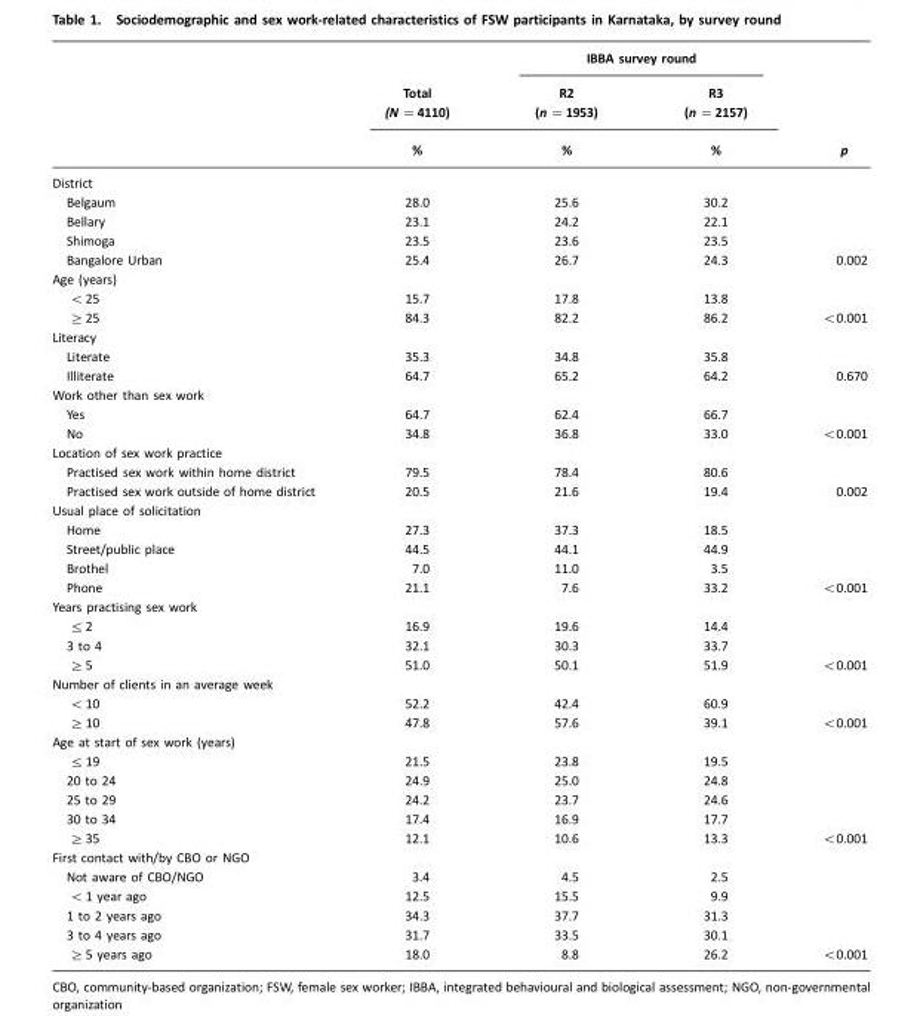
<table><thead><tr><td rowspan="4"></td><td rowspan="4">Total (N =4110) %</td><td colspan="2">IBBA survey round</td><td rowspan="4">p</td></tr><tr><td rowspan="3">R2 (n =1953) %</td><td rowspan="3">R3 (n =2157) %</td></tr><tr></tr><tr></tr></thead><tbody><tr><td colspan="5">District</td></tr><tr><td>Belgaum</td><td>28.0</td><td>25.6</td><td>30.2</td><td></td></tr><tr><td>Bellary</td><td>23.1</td><td>24.2</td><td>22.1</td><td></td></tr><tr><td>Shimoga</td><td>23.5</td><td>23.6</td><td>23.5</td><td></td></tr><tr><td>Bangalore Urban</td><td>25.4</td><td>26.7</td><td>24.3</td><td>0.002</td></tr><tr><td colspan="5">Age (years)</td></tr><tr><td>&lt;25</td><td>15.7</td><td>17.8</td><td>13.8</td><td></td></tr><tr><td>≥25</td><td>84.3</td><td>82.2</td><td>86.2</td><td>&lt;0.001</td></tr><tr><td colspan="5">Literacy</td></tr><tr><td>Literate</td><td>35.3</td><td>34.8</td><td>35.8</td><td></td></tr><tr><td>Illiterate</td><td>64.7</td><td>65.2</td><td>64.2</td><td>0.670</td></tr><tr><td colspan="5">Work other than sex work</td></tr><tr><td>Yes</td><td>64.7</td><td>62.4</td><td>66.7</td><td></td></tr><tr><td>No</td><td>34.8</td><td>36.8</td><td>33.0</td><td>&lt;0.001</td></tr><tr><td colspan="5">Location of sex work practice</td></tr><tr><td>Practised sex work within home district</td><td>79.5</td><td>78.4</td><td>80.6</td><td></td></tr><tr><td>Practised sex work outside of home district</td><td>20.5</td><td>21.6</td><td>19.4</td><td>0.002</td></tr><tr><td colspan="5">Usual place of solicitation</td></tr><tr><td>Home</td><td>27.3</td><td>37.3</td><td>18.5</td><td></td></tr><tr><td>Street/public place</td><td>44.5</td><td>44.1</td><td>44.9</td><td></td></tr><tr><td>Brothel</td><td>7.0</td><td>11.0</td><td>3.5</td><td></td></tr><tr><td>Phone</td><td>21.1</td><td>7.6</td><td>33.2</td><td>&lt;0.001</td></tr><tr><td colspan="5">Years practising sex work</td></tr><tr><td>≤2</td><td>16.9</td><td>19.6</td><td>14.4</td><td></td></tr><tr><td>3 to 4</td><td>32.1</td><td>30.3</td><td>33.7</td><td></td></tr><tr><td>≥5</td><td>51.0</td><td>50.1</td><td>51.9</td><td>&lt;0.001</td></tr><tr><td colspan="5">Number of clients in an average week</td></tr><tr><td>&lt;10</td><td>52.2</td><td>42.4</td><td>60.9</td><td></td></tr><tr><td>≥10</td><td>47.8</td><td>57.6</td><td>39.1</td><td>&lt;0.001</td></tr><tr><td colspan="5">Age at start of sex work (years)</td></tr><tr><td>≤19</td><td>21.5</td><td>23.8</td><td>19.5</td><td></td></tr><tr><td>20 to 24</td><td>24.9</td><td>25.0</td><td>24.8</td><td></td></tr><tr><td>25 to 29</td><td>24.2</td><td>23.7</td><td>24.6</td><td></td></tr><tr><td>30 to 34</td><td>17.4</td><td>16.9</td><td>17.7</td><td></td></tr><tr><td>≥35</td><td>12.1</td><td>10.6</td><td>13.3</td><td>&lt;0.001</td></tr><tr><td colspan="5">First contact with/by CBO or NGO</td></tr><tr><td>Not aware of CBO/NGO</td><td>3.4</td><td>4.5</td><td>2.5</td><td></td></tr><tr><td>&lt;1 year ago</td><td>12.5</td><td>15.5</td><td>9.9</td><td></td></tr><tr><td>1 to 2 years ago</td><td>34.3</td><td>37.7</td><td>31.3</td><td></td></tr><tr><td>3 to 4 years ago</td><td>31.7</td><td>33.5</td><td>30.1</td><td></td></tr><tr><td>≥5 years ago</td><td>18.0</td><td>8.8</td><td>26.2</td><td>&lt;0.001</td></tr></tbody></table>